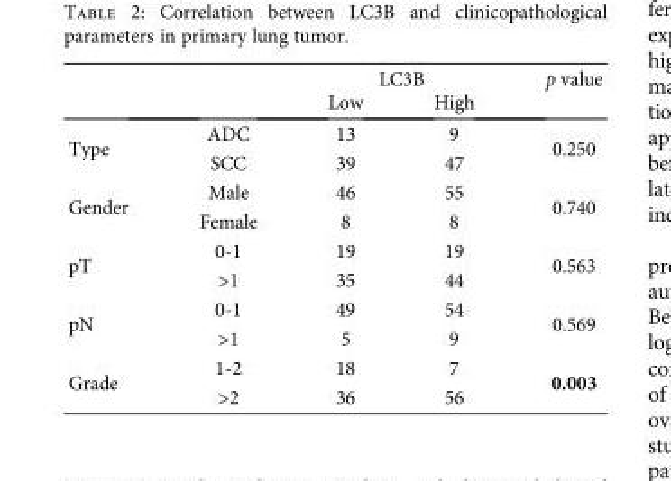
<table><thead><tr><td rowspan="2"></td><td rowspan="2"></td><td colspan="2">LC3B</td><td rowspan="2">p value</td></tr><tr><td>Low</td><td>High</td></tr></thead><tbody><tr><td rowspan="2">Type</td><td>ADC</td><td>13</td><td>9</td><td rowspan="2">0.250</td></tr><tr><td>SCC</td><td>39</td><td>47</td></tr><tr><td rowspan="2">Gender</td><td>Male</td><td>46</td><td>55</td><td rowspan="2">0.740</td></tr><tr><td>Female</td><td>8</td><td>8</td></tr><tr><td rowspan="2">pT</td><td>0-1</td><td>19</td><td>19</td><td rowspan="2">0.563</td></tr><tr><td>&gt;1</td><td>35</td><td>44</td></tr><tr><td rowspan="2">pN</td><td>0-1</td><td>49</td><td>54</td><td rowspan="2">0.569</td></tr><tr><td>&gt;1</td><td>5</td><td>9</td></tr><tr><td rowspan="2">Grade</td><td>1-2</td><td>18</td><td>7</td><td rowspan="2">0.003</td></tr><tr><td>&gt;2</td><td>36</td><td>56</td></tr></tbody></table>